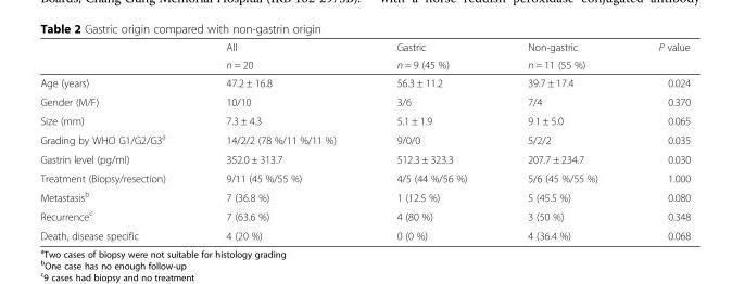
<table><thead><tr><td rowspan="2"></td><td rowspan="2">All n = 20</td><td rowspan="2">Gastric n = 9 (45 %)</td><td rowspan="2">Non-gastric n = 11 (55 %)</td><td rowspan="2">P value</td></tr><tr></tr></thead><tbody><tr><td>Age (years)</td><td>47.2 ± 16.8</td><td>56.3 ± 11.2</td><td>39.7 ± 17.4</td><td>0.024</td></tr><tr><td>Gender (M/F)</td><td>10/10</td><td>3/6</td><td>7/4</td><td>0.370</td></tr><tr><td>Size (mm)</td><td>7.3 ± 4.3</td><td>5.1 ± 1.9</td><td>9.1 ± 5.0</td><td>0.065</td></tr><tr><td>Grading by WHO G1/G2/G3<sup>a</sup></td><td>14/2/2 (78 %/11 %/11 %)</td><td>9/0/0</td><td>5/2/2</td><td>0.035</td></tr><tr><td>Gastrin level (pg/ml)</td><td>352.0 ± 313.7</td><td>512.3 ± 323.3</td><td>207.7 ± 234.7</td><td>0.030</td></tr><tr><td>Treatment (Biopsy/resection)</td><td>9/11 (45 %/55 %)</td><td>4/5 (44 %/56 %)</td><td>5/6 (45 %/55 %)</td><td>1.000</td></tr><tr><td>Metastasis<sup>b</sup></td><td>7 (36.8 %)</td><td>1 (12.5 %)</td><td>5 (45.5 %)</td><td>0.080</td></tr><tr><td>Recurrence<sup>c</sup></td><td>7 (63.6 %)</td><td>4 (80 %)</td><td>3 (50 %)</td><td>0.348</td></tr><tr><td>Death, disease specific</td><td>4 (20 %)</td><td>0 (0 %)</td><td>4 (36.4 %)</td><td>0.068</td></tr></tbody></table>